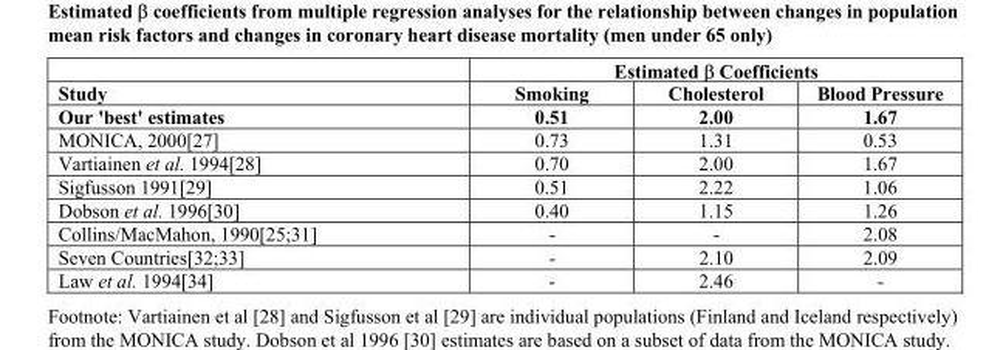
<table><thead><tr><td rowspan="2">Study</td><td colspan="3">Estimated β Coefficients</td></tr><tr><td>Smoking</td><td>Cholesterol</td><td>Blood Pressure</td></tr></thead><tbody><tr><td>Our &#x27;best&#x27; estimates</td><td>0.51</td><td>2.00</td><td>1.67</td></tr><tr><td>MONICA, 2000[27]</td><td>0.73</td><td>1.31</td><td>0.53</td></tr><tr><td>Vartiainen et al. 1994[28]</td><td>0.70</td><td>2.00</td><td>1.67</td></tr><tr><td>Sigfusson 1991[29]</td><td>0.51</td><td>2.22</td><td>1.06</td></tr><tr><td>Dobson et al. 1996[30]</td><td>0.40</td><td>1.15</td><td>1.26</td></tr><tr><td>Collins/MacMahon, 1990[25;31]</td><td>-</td><td>-</td><td>2.08</td></tr><tr><td>Seven Countries[32;33]</td><td>-</td><td>2.10</td><td>2.09</td></tr><tr><td>Law et al. 1994[34]</td><td>-</td><td>2.46</td><td>-</td></tr></tbody></table>